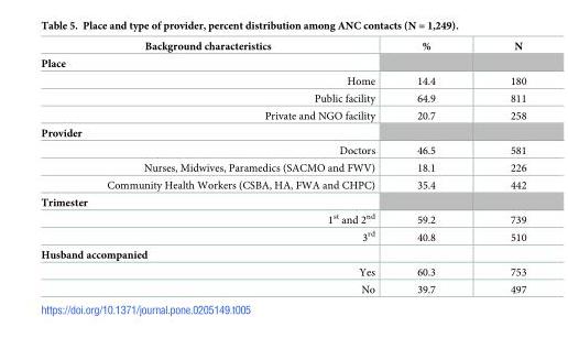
<table><thead><tr><td>Background characteristics</td><td>%</td><td>N</td></tr></thead><tbody><tr><td colspan="3">Place</td></tr><tr><td>Home</td><td>14.4</td><td>180</td></tr><tr><td>Public facility</td><td>64.9</td><td>811</td></tr><tr><td>Private and NGO facility</td><td>20.7</td><td>258</td></tr><tr><td colspan="3">Provider</td></tr><tr><td>Doctors</td><td>46.5</td><td>581</td></tr><tr><td>Nurses, Midwives, Paramedics (SACMO and FWV)</td><td>18.1</td><td>226</td></tr><tr><td>Community Health Workers (CSBA, HA, FWA and CHPC)</td><td>35.4</td><td>442</td></tr><tr><td colspan="3">Trimester</td></tr><tr><td>1<sup>st</sup> and 2<sup>nd</sup></td><td>59.2</td><td>739</td></tr><tr><td>3<sup>rd</sup></td><td>40.8</td><td>510</td></tr><tr><td colspan="3">Husband accompanied</td></tr><tr><td>Yes</td><td>60.3</td><td>753</td></tr><tr><td>No</td><td>39.7</td><td>497</td></tr></tbody></table>